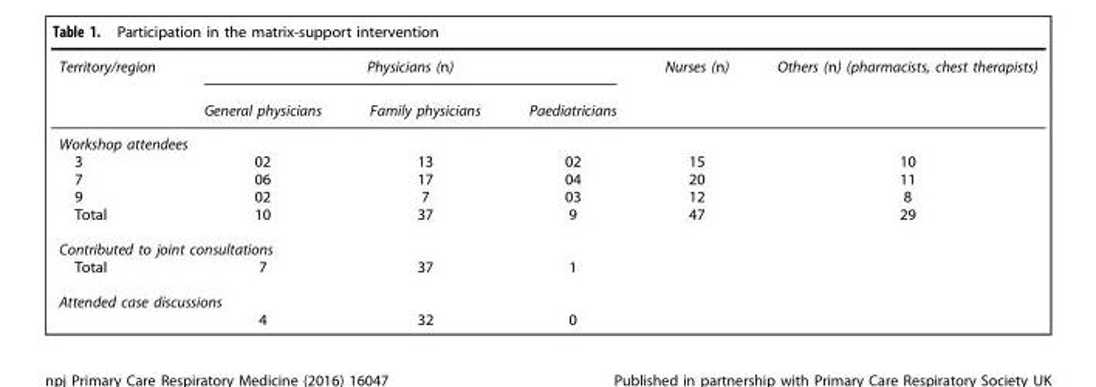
<table><thead><tr><td rowspan="2">Territory/region</td><td colspan="3">Physicians (n)</td><td rowspan="2">Nurses (n)</td><td rowspan="2">Others (n) (pharmacists, chest therapists)</td></tr><tr><td>General physicians</td><td>Family physicians</td><td>Paediatricians</td></tr></thead><tbody><tr><td colspan="6">Workshop attendees</td></tr><tr><td>3</td><td>02</td><td>13</td><td>02</td><td>15</td><td>10</td></tr><tr><td>7</td><td>06</td><td>17</td><td>04</td><td>20</td><td>11</td></tr><tr><td>9</td><td>02</td><td>7</td><td>03</td><td>12</td><td>8</td></tr><tr><td>Total</td><td>10</td><td>37</td><td>9</td><td>47</td><td>29</td></tr><tr><td colspan="6">Contributed to joint consultations</td></tr><tr><td>Total</td><td>7</td><td>37</td><td>1</td><td></td><td></td></tr><tr><td colspan="6">Attended case discussions</td></tr><tr><td></td><td>4</td><td>32</td><td>0</td><td></td><td></td></tr></tbody></table>